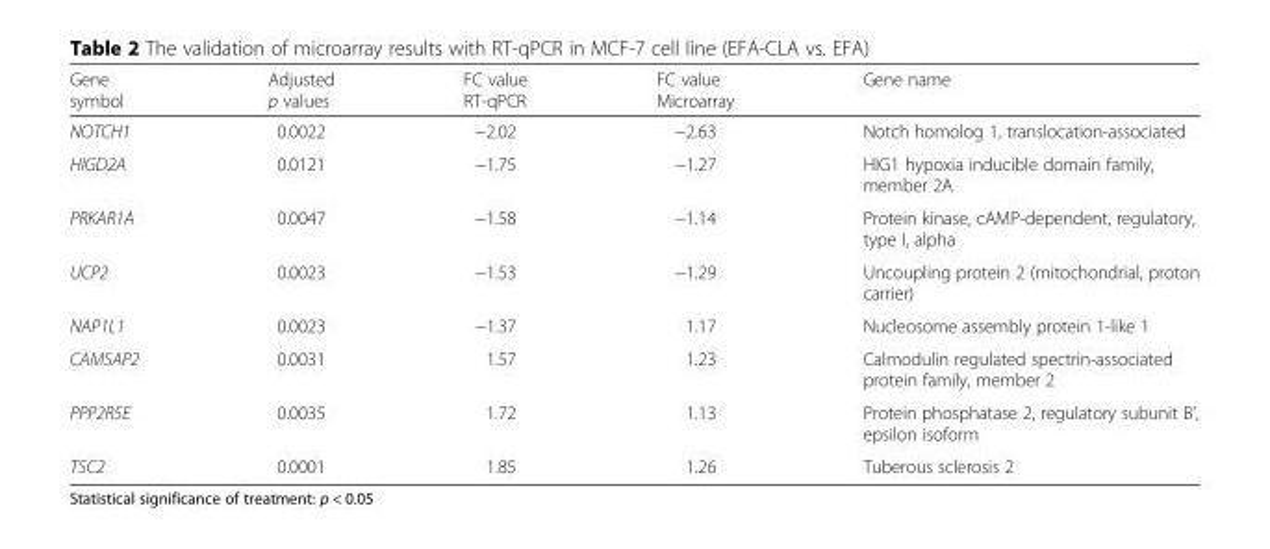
<table><thead><tr><td>Gene symbol</td><td>Adjusted p values</td><td>FC value RT-qPCR</td><td>FC value Microarray</td><td>Gene name</td></tr></thead><tbody><tr><td>NOTCH1</td><td>0.0022</td><td>−2.02</td><td>−2.63</td><td>Notch homolog 1, translocation-associated</td></tr><tr><td>HIGD2A</td><td>0.0121</td><td>−1.75</td><td>−1.27</td><td>HIG1 hypoxia inducible domain family, member 2A</td></tr><tr><td>PRKAR1A</td><td>0.0047</td><td>−1.58</td><td>−1.14</td><td>Protein kinase, cAMP-dependent, regulatory, type I, alpha</td></tr><tr><td>UCP2</td><td>0.0023</td><td>−1.53</td><td>−1.29</td><td>Uncoupling protein 2 (mitochondrial, proton carrier)</td></tr><tr><td>NAP1L1</td><td>0.0023</td><td>−1.37</td><td>1.17</td><td>Nucleosome assembly protein 1-like 1</td></tr><tr><td>CAMSAP2</td><td>0.0031</td><td>1.57</td><td>1.23</td><td>Calmodulin regulated spectrin-associated protein family, member 2</td></tr><tr><td>PPP2R5E</td><td>0.0035</td><td>1.72</td><td>1.13</td><td>Protein phosphatase 2, regulatory subunit B&#x27;, epsilon isoform</td></tr><tr><td>TSC2</td><td>0.0001</td><td>1.85</td><td>1.26</td><td>Tuberous sclerosis 2</td></tr></tbody></table>